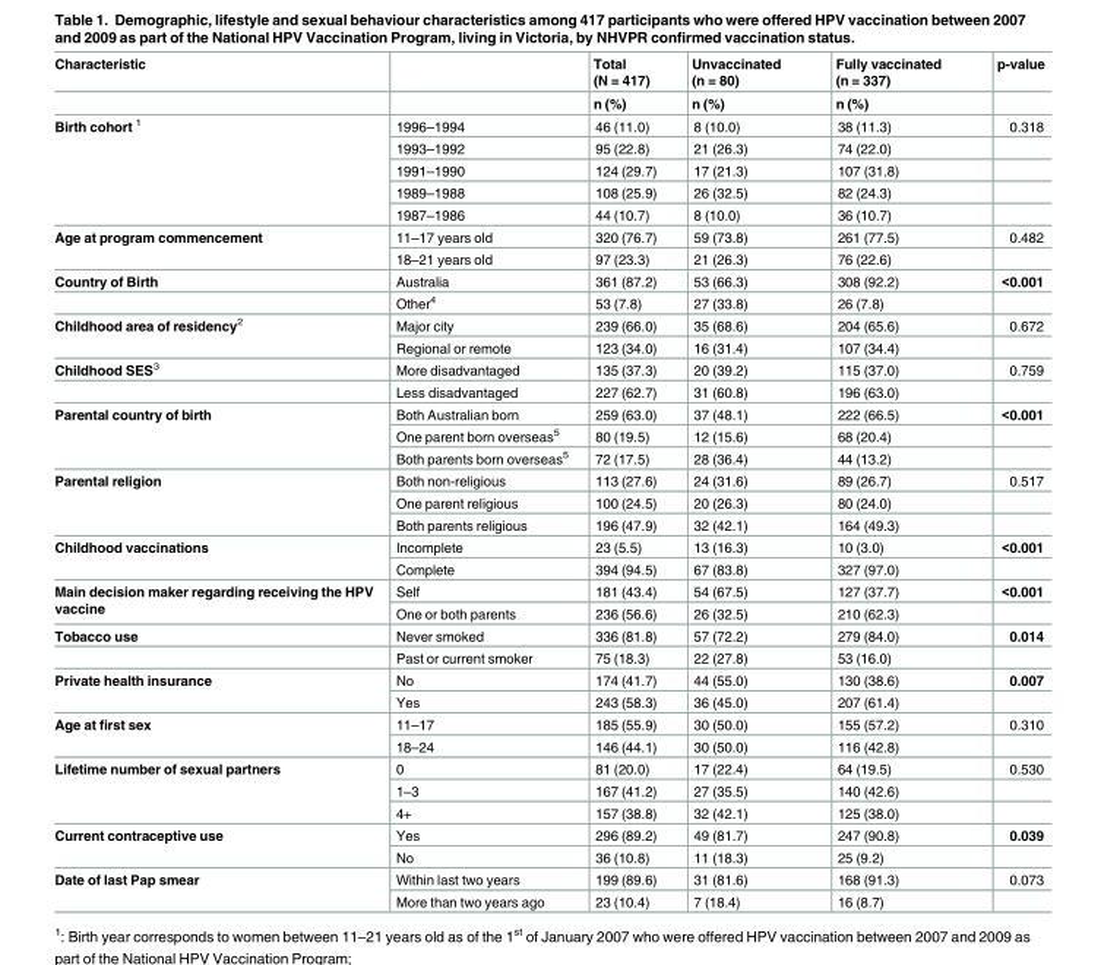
<table><thead><tr><td rowspan="2">Characteristic</td><td rowspan="2"></td><td rowspan="2">Total (N = 417) n (%)</td><td rowspan="2">Unvaccinated (n = 80) n (%)</td><td rowspan="2">Fully vaccinated (n = 337) n (%)</td><td rowspan="2">p-value</td></tr><tr></tr></thead><tbody><tr><td rowspan="5">Birth cohort <sup>1</sup></td><td>1996–1994</td><td>46 (11.0)</td><td>8 (10.0)</td><td>38 (11.3)</td><td>0.318</td></tr><tr><td>1993–1992</td><td>95 (22.8)</td><td>21 (26.3)</td><td>74 (22.0)</td><td></td></tr><tr><td>1991–1990</td><td>124 (29.7)</td><td>17 (21.3)</td><td>107 (31.8)</td><td></td></tr><tr><td>1989–1988</td><td>108 (25.9)</td><td>26 (32.5)</td><td>82 (24.3)</td><td></td></tr><tr><td>1987–1986</td><td>44 (10.7)</td><td>8 (10.0)</td><td>36 (10.7)</td><td></td></tr><tr><td rowspan="2">Age at program commencement</td><td>11–17 years old</td><td>320 (76.7)</td><td>59 (73.8)</td><td>261 (77.5)</td><td>0.482</td></tr><tr><td>18–21 years old</td><td>97 (23.3)</td><td>21 (26.3)</td><td>76 (22.6)</td><td></td></tr><tr><td rowspan="2">Country of Birth</td><td>Australia</td><td>361 (87.2)</td><td>53 (66.3)</td><td>308 (92.2)</td><td>&lt;0.001</td></tr><tr><td>Other<sup>4</sup></td><td>53 (7.8)</td><td>27 (33.8)</td><td>26 (7.8)</td><td></td></tr><tr><td rowspan="2">Childhood area of residency<sup>2</sup></td><td>Major city</td><td>239 (66.0)</td><td>35 (68.6)</td><td>204 (65.6)</td><td>0.672</td></tr><tr><td>Regional or remote</td><td>123 (34.0)</td><td>16 (31.4)</td><td>107 (34.4)</td><td></td></tr><tr><td rowspan="2">Childhood SES<sup>3</sup></td><td>More disadvantaged</td><td>135 (37.3)</td><td>20 (39.2)</td><td>115 (37.0)</td><td>0.759</td></tr><tr><td>Less disadvantaged</td><td>227 (62.7)</td><td>31 (60.8)</td><td>196 (63.0)</td><td></td></tr><tr><td rowspan="3">Parental country of birth</td><td>Both Australian born</td><td>259 (63.0)</td><td>37 (48.1)</td><td>222 (66.5)</td><td>&lt;0.001</td></tr><tr><td>One parent born overseas<sup>5</sup></td><td>80 (19.5)</td><td>12 (15.6)</td><td>68 (20.4)</td><td></td></tr><tr><td>Both parents born overseas<sup>5</sup></td><td>72 (17.5)</td><td>28 (36.4)</td><td>44 (13.2)</td><td></td></tr><tr><td rowspan="3">Parental religion</td><td>Both non-religious</td><td>113 (27.6)</td><td>24 (31.6)</td><td>89 (26.7)</td><td>0.517</td></tr><tr><td>One parent religious</td><td>100 (24.5)</td><td>20 (26.3)</td><td>80 (24.0)</td><td></td></tr><tr><td>Both parents religious</td><td>196 (47.9)</td><td>32 (42.1)</td><td>164 (49.3)</td><td></td></tr><tr><td rowspan="2">Childhood vaccinations</td><td>Incomplete</td><td>23 (5.5)</td><td>13 (16.3)</td><td>10 (3.0)</td><td>&lt;0.001</td></tr><tr><td>Complete</td><td>394 (94.5)</td><td>67 (83.8)</td><td>327 (97.0)</td><td></td></tr><tr><td rowspan="2">Main decision maker regarding receiving the HPV vaccine</td><td>Self</td><td>181 (43.4)</td><td>54 (67.5)</td><td>127 (37.7)</td><td>&lt;0.001</td></tr><tr><td>One or both parents</td><td>236 (56.6)</td><td>26 (32.5)</td><td>210 (62.3)</td><td></td></tr><tr><td rowspan="2">Tobacco use</td><td>Never smoked</td><td>336 (81.8)</td><td>57 (72.2)</td><td>279 (84.0)</td><td>0.014</td></tr><tr><td>Past or current smoker</td><td>75 (18.3)</td><td>22 (27.8)</td><td>53 (16.0)</td><td></td></tr><tr><td rowspan="2">Private health insurance</td><td>No</td><td>174 (41.7)</td><td>44 (55.0)</td><td>130 (38.6)</td><td>0.007</td></tr><tr><td>Yes</td><td>243 (58.3)</td><td>36 (45.0)</td><td>207 (61.4)</td><td></td></tr><tr><td rowspan="2">Age at first sex</td><td>11–17</td><td>185 (55.9)</td><td>30 (50.0)</td><td>155 (57.2)</td><td>0.310</td></tr><tr><td>18–24</td><td>146 (44.1)</td><td>30 (50.0)</td><td>116 (42.8)</td><td></td></tr><tr><td rowspan="3">Lifetime number of sexual partners</td><td>0</td><td>81 (20.0)</td><td>17 (22.4)</td><td>64 (19.5)</td><td>0.530</td></tr><tr><td>1–3</td><td>167 (41.2)</td><td>27 (35.5)</td><td>140 (42.6)</td><td></td></tr><tr><td>4+</td><td>157 (38.8)</td><td>32 (42.1)</td><td>125 (38.0)</td><td></td></tr><tr><td rowspan="2">Current contraceptive use</td><td>Yes</td><td>296 (89.2)</td><td>49 (81.7)</td><td>247 (90.8)</td><td>0.039</td></tr><tr><td>No</td><td>36 (10.8)</td><td>11 (18.3)</td><td>25 (9.2)</td><td></td></tr><tr><td rowspan="2">Date of last Pap smear</td><td>Within last two years</td><td>199 (89.6)</td><td>31 (81.6)</td><td>168 (91.3)</td><td>0.073</td></tr><tr><td>More than two years ago</td><td>23 (10.4)</td><td>7 (18.4)</td><td>16 (8.7)</td><td></td></tr></tbody></table>